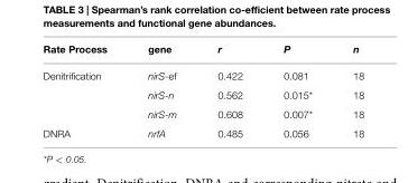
<table><thead><tr><td>Rate Process</td><td>gene</td><td>r</td><td>P</td><td>n</td></tr></thead><tbody><tr><td rowspan="3">Denitrification</td><td>nirS-ef</td><td>0.422</td><td>0.081</td><td>18</td></tr><tr><td>nirS-n</td><td>0.562</td><td>0.015*</td><td>18</td></tr><tr><td>nirS-m</td><td>0.608</td><td>0.007*</td><td>18</td></tr><tr><td>DNRA</td><td>nrfA</td><td>0.485</td><td>0.056</td><td>18</td></tr></tbody></table>